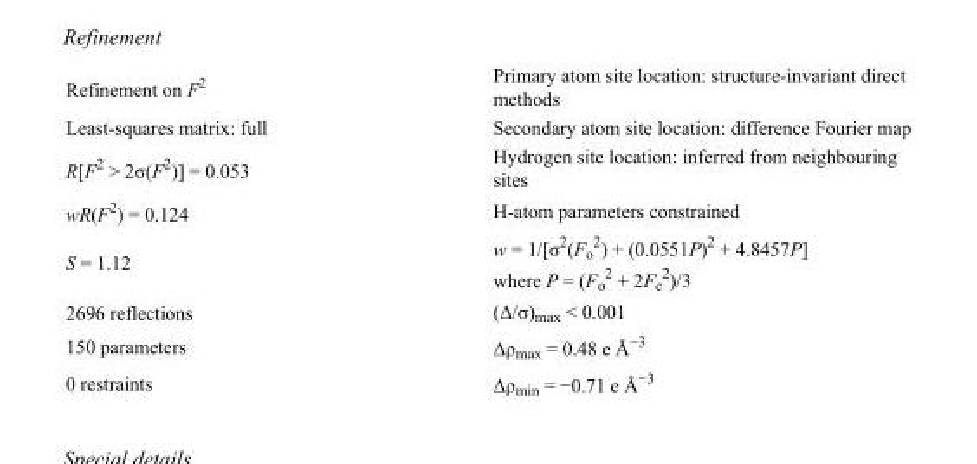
<table><tbody><tr><td>Refinement on F<sup>2</sup></td><td>Primary atom site location: structure-invariant direct methods</td></tr><tr><td>Least-squares matrix: full</td><td>Secondary atom site location: difference Fourier map</td></tr><tr><td>R[F<sup>2</sup> &gt; 2σ(F<sup>2</sup>)] = 0.053</td><td>Hydrogen site location: inferred from neighbouring sites</td></tr><tr><td>wR(F<sup>2</sup>) = 0.124</td><td>H-atom parameters constrained</td></tr><tr><td>S = 1.12</td><td>w = 1/[σ<sup>2</sup>(F<sub>o</sub> <sup>2</sup>) + (0.0551P)<sup>2</sup> + 4.8457P] where P = (F<sub>o</sub> <sup>2</sup> + 2F<sub>c</sub> <sup>2</sup>)/3</td></tr><tr><td>2696 reflections</td><td>(Δ/σ)<sub>max</sub> &lt; 0.001</td></tr><tr><td>150 parameters</td><td>Δρ<sub>max</sub> = 0.48 e Å<sup>−3</sup></td></tr><tr><td>0 restraints</td><td>Δρ<sub>min</sub> = −0.71 e Å<sup>−3</sup></td></tr></tbody></table>